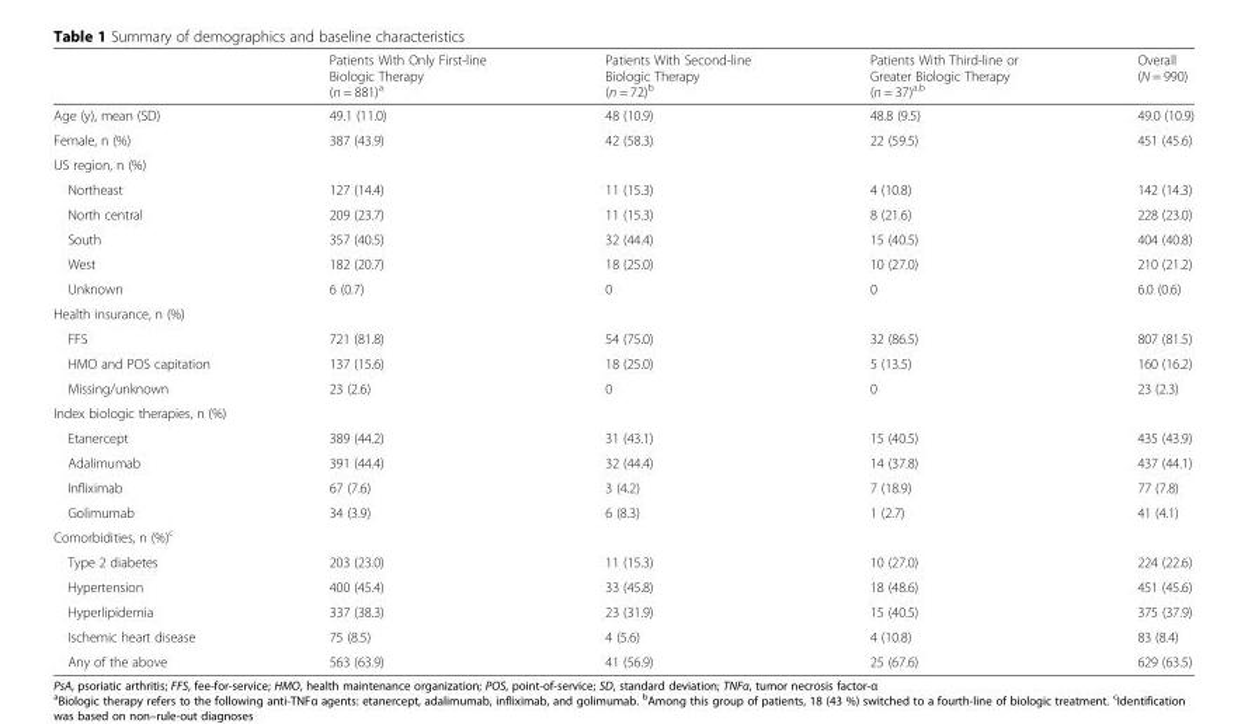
<table><thead><tr><td></td><td>Patients With Only First-line Biologic Therapy (n = 881)<sup>a</sup></td><td>Patients With Second-line Biologic Therapy (n = 72)<sup>b</sup></td><td>Patients With Third-line or Greater Biologic Therapy (n = 37)<sup>a,b</sup></td><td>Overall (N = 990)</td></tr></thead><tbody><tr><td>Age (y), mean (SD)</td><td>49.1 (11.0)</td><td>48 (10.9)</td><td>48.8 (9.5)</td><td>49.0 (10.9)</td></tr><tr><td>Female, n (%)</td><td>387 (43.9)</td><td>42 (58.3)</td><td>22 (59.5)</td><td>451 (45.6)</td></tr><tr><td colspan="5">US region, n (%)</td></tr><tr><td>Northeast</td><td>127 (14.4)</td><td>11 (15.3)</td><td>4 (10.8)</td><td>142 (14.3)</td></tr><tr><td>North central</td><td>209 (23.7)</td><td>11 (15.3)</td><td>8 (21.6)</td><td>228 (23.0)</td></tr><tr><td>South</td><td>357 (40.5)</td><td>32 (44.4)</td><td>15 (40.5)</td><td>404 (40.8)</td></tr><tr><td>West</td><td>182 (20.7)</td><td>18 (25.0)</td><td>10 (27.0)</td><td>210 (21.2)</td></tr><tr><td>Unknown</td><td>6 (0.7)</td><td>0</td><td>0</td><td>6.0 (0.6)</td></tr><tr><td colspan="5">Health insurance, n (%)</td></tr><tr><td>FFS</td><td>721 (81.8)</td><td>54 (75.0)</td><td>32 (86.5)</td><td>807 (81.5)</td></tr><tr><td>HMO and POS capitation</td><td>137 (15.6)</td><td>18 (25.0)</td><td>5 (13.5)</td><td>160 (16.2)</td></tr><tr><td>Missing/unknown</td><td>23 (2.6)</td><td>0</td><td>0</td><td>23 (2.3)</td></tr><tr><td colspan="5">Index biologic therapies, n (%)</td></tr><tr><td>Etanercept</td><td>389 (44.2)</td><td>31 (43.1)</td><td>15 (40.5)</td><td>435 (43.9)</td></tr><tr><td>Adalimumab</td><td>391 (44.4)</td><td>32 (44.4)</td><td>14 (37.8)</td><td>437 (44.1)</td></tr><tr><td>Infliximab</td><td>67 (7.6)</td><td>3 (4.2)</td><td>7 (18.9)</td><td>77 (7.8)</td></tr><tr><td>Golimumab</td><td>34 (3.9)</td><td>6 (8.3)</td><td>1 (2.7)</td><td>41 (4.1)</td></tr><tr><td colspan="5">Comorbidities, n (%)<sup>c</sup></td></tr><tr><td>Type 2 diabetes</td><td>203 (23.0)</td><td>11 (15.3)</td><td>10 (27.0)</td><td>224 (22.6)</td></tr><tr><td>Hypertension</td><td>400 (45.4)</td><td>33 (45.8)</td><td>18 (48.6)</td><td>451 (45.6)</td></tr><tr><td>Hyperlipidemia</td><td>337 (38.3)</td><td>23 (31.9)</td><td>15 (40.5)</td><td>375 (37.9)</td></tr><tr><td>Ischemic heart disease</td><td>75 (8.5)</td><td>4 (5.6)</td><td>4 (10.8)</td><td>83 (8.4)</td></tr><tr><td>Any of the above</td><td>563 (63.9)</td><td>41 (56.9)</td><td>25 (67.6)</td><td>629 (63.5)</td></tr></tbody></table>